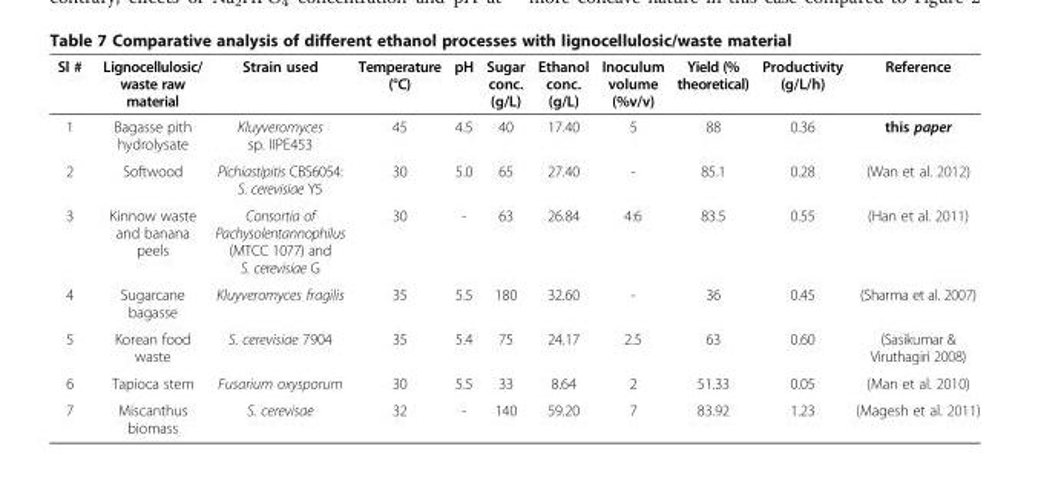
<table><thead><tr><td>Sl #</td><td>Lignocellulosic/ waste raw material</td><td>Strain used</td><td>Temperature (°C)</td><td>pH</td><td>Sugar conc. (g/L)</td><td>Ethanol conc. (g/L)</td><td>Inoculum volume (%v/v)</td><td>Yield (% theoretical)</td><td>Productivity (g/L/h)</td><td>Reference</td></tr></thead><tbody><tr><td>1</td><td>Bagasse pith hydrolysate</td><td>Kluyveromyces sp. IIPE453</td><td>45</td><td>4.5</td><td>40</td><td>17.40</td><td>5</td><td>88</td><td>0.36</td><td>this paper</td></tr><tr><td>2</td><td>Softwood</td><td>Pichiastipitis CBS6054: S. cerevisiae Y5</td><td>30</td><td>5.0</td><td>65</td><td>27.40</td><td>-</td><td>85.1</td><td>0.28</td><td>(Wan et al. 2012)</td></tr><tr><td>3</td><td>Kinnow waste and banana peels</td><td>Consortia of Pachysolentannophilus (MTCC 1077) and S. cerevisiae G</td><td>30</td><td>-</td><td>63</td><td>26.84</td><td>4:6</td><td>83.5</td><td>0.55</td><td>(Han et al. 2011)</td></tr><tr><td>4</td><td>Sugarcane bagasse</td><td>Kluyveromyces fragilis</td><td>35</td><td>5.5</td><td>180</td><td>32.60</td><td>-</td><td>36</td><td>0.45</td><td>(Sharma et al. 2007)</td></tr><tr><td>5</td><td>Korean food waste</td><td>S. cerevisiae 7904</td><td>35</td><td>5.4</td><td>75</td><td>24.17</td><td>2.5</td><td>63</td><td>0.60</td><td>(Sasikumar &amp; Viruthagiri 2008)</td></tr><tr><td>6</td><td>Tapioca stem</td><td>Fusarium oxysporum</td><td>30</td><td>5.5</td><td>33</td><td>8.64</td><td>2</td><td>51.33</td><td>0.05</td><td>(Man et al. 2010)</td></tr><tr><td>7</td><td>Miscanthus biomass</td><td>S. cerevisae</td><td>32</td><td>-</td><td>140</td><td>59.20</td><td>7</td><td>83.92</td><td>1.23</td><td>(Magesh et al. 2011)</td></tr></tbody></table>